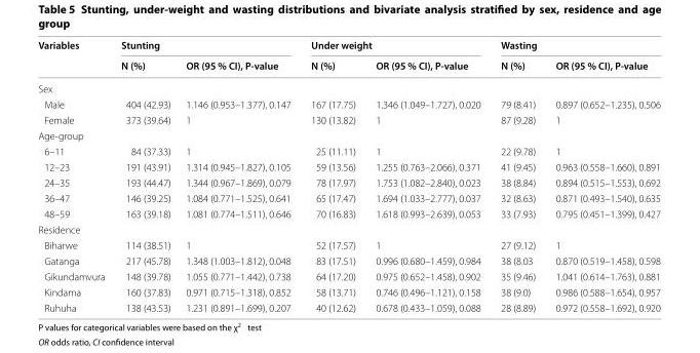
<table><thead><tr><td rowspan="2">Variables</td><td colspan="2">Stunting</td><td colspan="2">Under weight</td><td colspan="2">Wasting</td></tr><tr><td>N (%)</td><td>OR (95 % CI), P-value</td><td>N (%)</td><td>OR (95 % CI), P-value</td><td>N (%)</td><td>OR (95 % CI), P-value</td></tr></thead><tbody><tr><td colspan="7">Sex</td></tr><tr><td>Male</td><td>404 (42.93)</td><td>1.146 (0.953–1.377), 0.147</td><td>167 (17.75)</td><td>1.346 (1.049–1.727), 0.020</td><td>79 (8.41)</td><td>0.897 (0.652–1.235), 0.506</td></tr><tr><td>Female</td><td>373 (39.64)</td><td>1</td><td>130 (13.82)</td><td>1</td><td>87 (9.28)</td><td>1</td></tr><tr><td colspan="7">Age-group</td></tr><tr><td>6–11</td><td>84 (37.33)</td><td>1</td><td>25 (11.11)</td><td>1</td><td>22 (9.78)</td><td>1</td></tr><tr><td>12–23</td><td>191 (43.91)</td><td>1.314 (0.945–1.827), 0.105</td><td>59 (13.56)</td><td>1.255 (0.763–2.066), 0.371</td><td>41 (9.45)</td><td>0.963 (0.558–1.660), 0.891</td></tr><tr><td>24–35</td><td>193 (44.47)</td><td>1.344 (0.967–1.869), 0.079</td><td>78 (17.97)</td><td>1.753 (1.082–2.840), 0.023</td><td>38 (8.84)</td><td>0.894 (0.515–1.553), 0.692</td></tr><tr><td>36–47</td><td>146 (39.25)</td><td>1.084 (0.771–1.525), 0.641</td><td>65 (17.47)</td><td>1.694 (1.033–2.777), 0.037</td><td>32 (8.63)</td><td>0.871 (0.493–1.540), 0.635</td></tr><tr><td>48–59</td><td>163 (39.18)</td><td>1.081 (0.774–1.511), 0.646</td><td>70 (16.83)</td><td>1.618 (0.993–2.639), 0.053</td><td>33 (7.93)</td><td>0.795 (0.451–1.399), 0.427</td></tr><tr><td colspan="7">Residence</td></tr><tr><td>Biharwe</td><td>114 (38.51)</td><td>1</td><td>52 (17.57)</td><td>1</td><td>27 (9.12)</td><td>1</td></tr><tr><td>Gatanga</td><td>217 (45.78)</td><td>1.348 (1.003–1.812), 0.048</td><td>83 (17.51)</td><td>0.996 (0.680–1.459), 0.984</td><td>38 (8.03</td><td>0.870 (0.519–1.458), 0.598</td></tr><tr><td>Gikundamvura</td><td>148 (39.78)</td><td>1.055 (0.771–1.442), 0.738</td><td>64 (17.20)</td><td>0.975 (0.652–1.458), 0.902</td><td>35 (9.46)</td><td>1.041 (0.614–1.763), 0.881</td></tr><tr><td>Kindama</td><td>160 (37.83)</td><td>0.971 (0.715–1.318), 0.852</td><td>58 (13.71)</td><td>0.746 (0.496–1.121), 0.158</td><td>38 (9.0)</td><td>0.986 (0.588–1.654), 0.957</td></tr><tr><td>Ruhuha</td><td>138 (43.53)</td><td>1.231 (0.891–1.699), 0.207</td><td>40 (12.62)</td><td>0.678 (0.433–1.059), 0.088</td><td>28 (8.89)</td><td>0.972 (0.558–1.692), 0.920</td></tr></tbody></table>